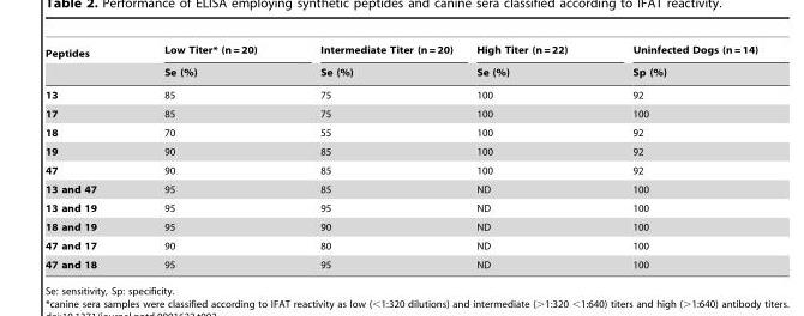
<table><thead><tr><td rowspan="2">Peptides</td><td rowspan="2">Low Titer* (n = 20) Se (%)</td><td rowspan="2">Intermediate Titer (n = 20) Se (%)</td><td rowspan="2">High Titer (n = 22) Se (%)</td><td rowspan="2">Uninfected Dogs (n = 14) Sp (%)</td></tr><tr></tr></thead><tbody><tr><td>13</td><td>85</td><td>75</td><td>100</td><td>92</td></tr><tr><td>17</td><td>85</td><td>75</td><td>100</td><td>100</td></tr><tr><td>18</td><td>70</td><td>55</td><td>100</td><td>92</td></tr><tr><td>19</td><td>90</td><td>85</td><td>100</td><td>92</td></tr><tr><td>47</td><td>90</td><td>85</td><td>100</td><td>92</td></tr><tr><td>13 and 47</td><td>95</td><td>85</td><td>ND</td><td>100</td></tr><tr><td>13 and 19</td><td>95</td><td>95</td><td>ND</td><td>100</td></tr><tr><td>18 and 19</td><td>95</td><td>90</td><td>ND</td><td>100</td></tr><tr><td>47 and 17</td><td>90</td><td>80</td><td>ND</td><td>100</td></tr><tr><td>47 and 18</td><td>95</td><td>95</td><td>ND</td><td>100</td></tr></tbody></table>